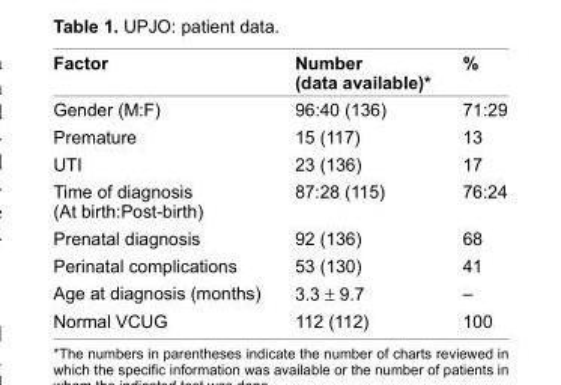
<table><thead><tr><td>Factor</td><td>number (data available)*</td><td>%</td></tr></thead><tbody><tr><td>gender (M:F)</td><td>96:40 (136)</td><td>71:29</td></tr><tr><td>Premature</td><td>15 (117)</td><td>13</td></tr><tr><td>UTi</td><td>23 (136)</td><td>17</td></tr><tr><td>Time of diagnosis (At birth:Post-birth)</td><td>87:28 (115)</td><td>76:24</td></tr><tr><td>Prenatal diagnosis</td><td>92 (136)</td><td>68</td></tr><tr><td>Perinatal complications</td><td>53 (130)</td><td>41</td></tr><tr><td>Age at diagnosis (months)</td><td>3.3 ± 9.7</td><td>–</td></tr><tr><td>normal VCUg</td><td>112 (112)</td><td>100</td></tr></tbody></table>